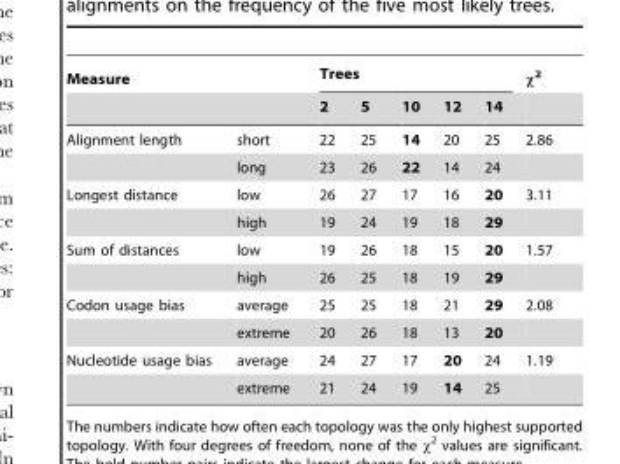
<table><thead><tr><td colspan="2">Measure</td><td colspan="5">Trees</td><td rowspan="2">χ<sup>2</sup></td></tr><tr><td></td><td></td><td>2</td><td>5</td><td>10</td><td>12</td><td>14</td></tr></thead><tbody><tr><td rowspan="2">Alignment length</td><td>short</td><td>22</td><td>25</td><td>14</td><td>20</td><td>25</td><td>2.86</td></tr><tr><td>long</td><td>23</td><td>26</td><td>22</td><td>14</td><td>24</td><td></td></tr><tr><td rowspan="2">Longest distance</td><td>low</td><td>26</td><td>27</td><td>17</td><td>16</td><td>20</td><td>3.11</td></tr><tr><td>high</td><td>19</td><td>24</td><td>19</td><td>18</td><td>29</td><td></td></tr><tr><td rowspan="2">Sum of distances</td><td>low</td><td>19</td><td>26</td><td>18</td><td>15</td><td>20</td><td>1.57</td></tr><tr><td>high</td><td>26</td><td>25</td><td>18</td><td>19</td><td>29</td><td></td></tr><tr><td rowspan="2">Codon usage bias</td><td>average</td><td>25</td><td>25</td><td>18</td><td>21</td><td>29</td><td>2.08</td></tr><tr><td>extreme</td><td>20</td><td>26</td><td>18</td><td>13</td><td>20</td><td></td></tr><tr><td rowspan="2">Nucleotide usage bias</td><td>average</td><td>24</td><td>27</td><td>17</td><td>20</td><td>24</td><td>1.19</td></tr><tr><td>extreme</td><td>21</td><td>24</td><td>19</td><td>14</td><td>25</td><td></td></tr></tbody></table>